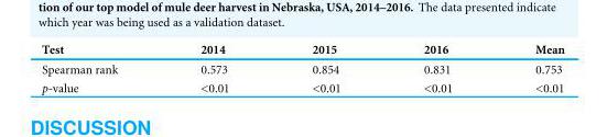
<table><thead><tr><td>Test</td><td>2014</td><td>2015</td><td>2016</td><td>Mean</td></tr></thead><tbody><tr><td>Spearman rank</td><td>0.573</td><td>0.854</td><td>0.831</td><td>0.753</td></tr><tr><td>p-value</td><td>&lt;0.01</td><td>&lt;0.01</td><td>&lt;0.01</td><td>&lt;0.01</td></tr></tbody></table>